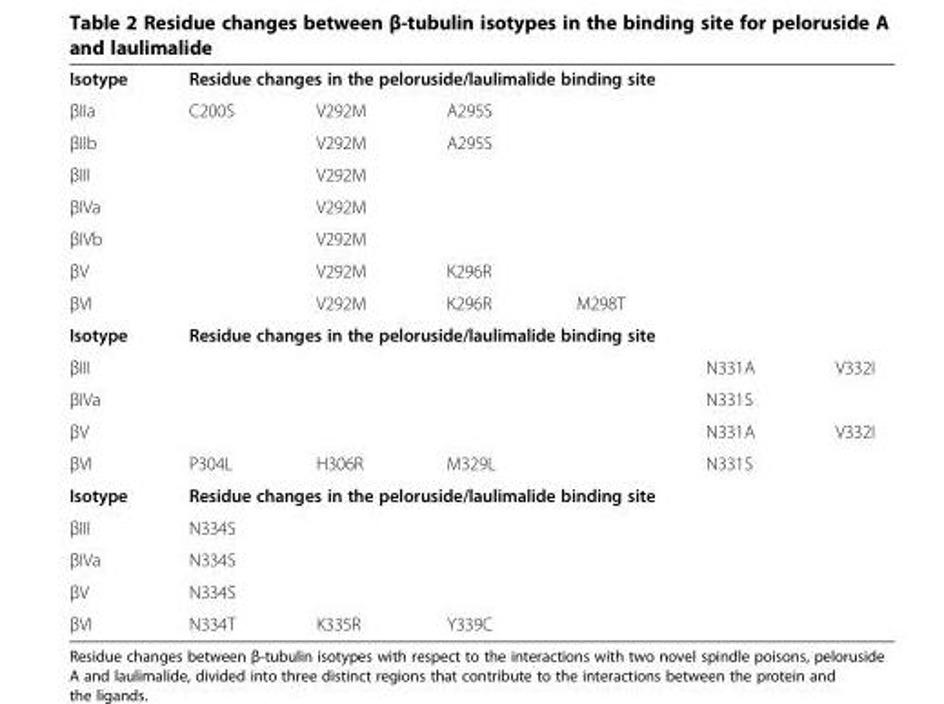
<table><tbody><tr><td>Isotype</td><td colspan="6">Residue changes in the peloruside/laulimalide binding site</td></tr><tr><td>βIIa</td><td>C200S</td><td>V292M</td><td>A295S</td><td></td><td></td><td></td></tr><tr><td>βIIb</td><td></td><td>V292M</td><td>A295S</td><td></td><td></td><td></td></tr><tr><td>βIII</td><td></td><td>V292M</td><td></td><td></td><td></td><td></td></tr><tr><td>βIVa</td><td></td><td>V292M</td><td></td><td></td><td></td><td></td></tr><tr><td>βIVb</td><td></td><td>V292M</td><td></td><td></td><td></td><td></td></tr><tr><td>βV</td><td></td><td>V292M</td><td>K296R</td><td></td><td></td><td></td></tr><tr><td>βVI</td><td></td><td>V292M</td><td>K296R</td><td>M298T</td><td></td><td></td></tr><tr><td>Isotype</td><td colspan="6">Residue changes in the peloruside/laulimalide binding site</td></tr><tr><td>βIII</td><td></td><td></td><td></td><td></td><td>N331A</td><td>V332I</td></tr><tr><td>βIVa</td><td></td><td></td><td></td><td></td><td>N331S</td><td></td></tr><tr><td>βV</td><td></td><td></td><td></td><td></td><td>N331A</td><td>V332I</td></tr><tr><td>βVI</td><td>P304L</td><td>H306R</td><td>M329L</td><td></td><td>N331S</td><td></td></tr><tr><td>Isotype</td><td colspan="6">Residue changes in the peloruside/laulimalide binding site</td></tr><tr><td>βIII</td><td>N334S</td><td></td><td></td><td></td><td></td><td></td></tr><tr><td>βIVa</td><td>N334S</td><td></td><td></td><td></td><td></td><td></td></tr><tr><td>βV</td><td>N334S</td><td></td><td></td><td></td><td></td><td></td></tr><tr><td>βVI</td><td>N334T</td><td>K335R</td><td>Y339C</td><td></td><td></td><td></td></tr></tbody></table>